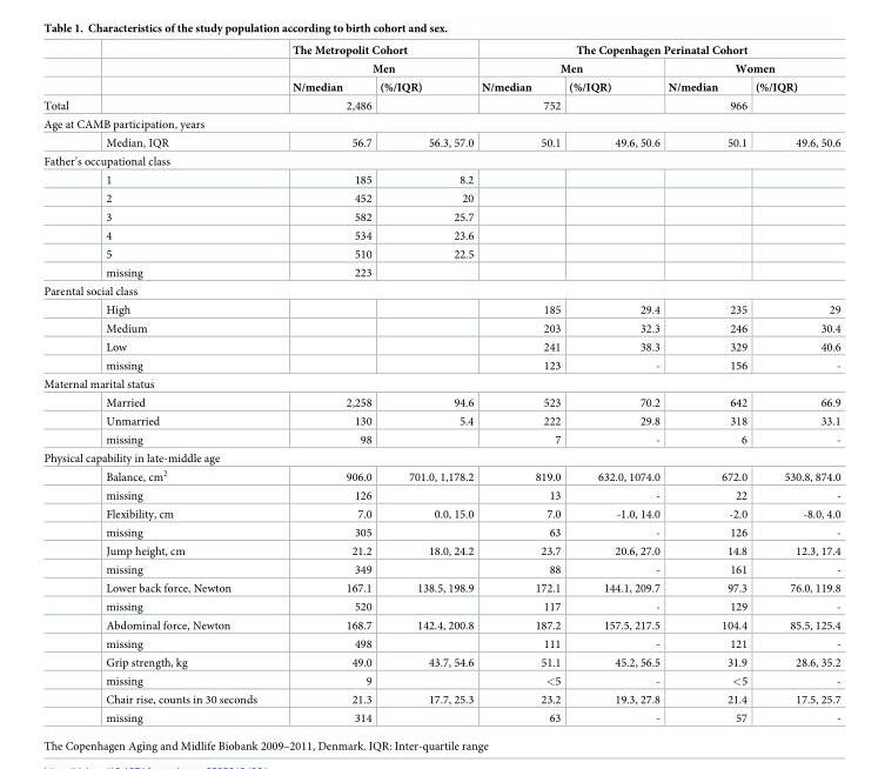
<table><thead><tr><td rowspan="3"></td><td rowspan="3"></td><td rowspan="2" colspan="2">The Metropolit Cohort Men</td><td colspan="4">The Copenhagen Perinatal Cohort</td></tr><tr><td colspan="2">Men</td><td colspan="2">Women</td></tr><tr><td>N/median</td><td>(%/IQR)</td><td>N/median</td><td>(%/IQR)</td><td>N/median</td><td>(%/IQR)</td></tr></thead><tbody><tr><td>Total</td><td></td><td>2,486</td><td></td><td>752</td><td></td><td>966</td><td></td></tr><tr><td colspan="8">Age at CAMB participation, years</td></tr><tr><td></td><td>Median, IQR</td><td>56.7</td><td>56.3, 57.0</td><td>50.1</td><td>49.6, 50.6</td><td>50.1</td><td>49.6, 50.6</td></tr><tr><td colspan="8">Father’s occupational class</td></tr><tr><td></td><td>1</td><td>185</td><td>8.2</td><td></td><td></td><td></td><td></td></tr><tr><td></td><td>2</td><td>452</td><td>20</td><td></td><td></td><td></td><td></td></tr><tr><td></td><td>3</td><td>582</td><td>25.7</td><td></td><td></td><td></td><td></td></tr><tr><td></td><td>4</td><td>534</td><td>23.6</td><td></td><td></td><td></td><td></td></tr><tr><td></td><td>5</td><td>510</td><td>22.5</td><td></td><td></td><td></td><td></td></tr><tr><td></td><td>missing</td><td>223</td><td></td><td></td><td></td><td></td><td></td></tr><tr><td colspan="8">Parental social class</td></tr><tr><td></td><td>High</td><td></td><td></td><td>185</td><td>29.4</td><td>235</td><td>29</td></tr><tr><td></td><td>Medium</td><td></td><td></td><td>203</td><td>32.3</td><td>246</td><td>30.4</td></tr><tr><td></td><td>Low</td><td></td><td></td><td>241</td><td>38.3</td><td>329</td><td>40.6</td></tr><tr><td></td><td>missing</td><td></td><td></td><td>123</td><td>-</td><td>156</td><td>-</td></tr><tr><td colspan="8">Maternal marital status</td></tr><tr><td></td><td>Married</td><td>2,258</td><td>94.6</td><td>523</td><td>70.2</td><td>642</td><td>66.9</td></tr><tr><td></td><td>Unmarried</td><td>130</td><td>5.4</td><td>222</td><td>29.8</td><td>318</td><td>33.1</td></tr><tr><td></td><td>missing</td><td>98</td><td></td><td>7</td><td>-</td><td>6</td><td>-</td></tr><tr><td colspan="8">Physical capability in late-middle age</td></tr><tr><td></td><td>Balance, cm<sup>2</sup></td><td>906.0</td><td>701.0, 1,178.2</td><td>819.0</td><td>632.0, 1074.0</td><td>672.0</td><td>530.8, 874.0</td></tr><tr><td></td><td>missing</td><td>126</td><td></td><td>13</td><td>-</td><td>22</td><td>-</td></tr><tr><td></td><td>Flexibility, cm</td><td>7.0</td><td>0.0, 15.0</td><td>7.0</td><td>-1.0, 14.0</td><td>-2.0</td><td>-8.0, 4.0</td></tr><tr><td></td><td>missing</td><td>305</td><td></td><td>63</td><td>-</td><td>126</td><td>-</td></tr><tr><td></td><td>Jump height, cm</td><td>21.2</td><td>18.0, 24.2</td><td>23.7</td><td>20.6, 27.0</td><td>14.8</td><td>12.3, 17.4</td></tr><tr><td></td><td>missing</td><td>349</td><td></td><td>88</td><td>-</td><td>161</td><td>-</td></tr><tr><td></td><td>Lower back force, Newton</td><td>167.1</td><td>138.5, 198.9</td><td>172.1</td><td>144.1, 209.7</td><td>97.3</td><td>76.0, 119.8</td></tr><tr><td></td><td>missing</td><td>520</td><td></td><td>117</td><td>-</td><td>129</td><td>-</td></tr><tr><td></td><td>Abdominal force, Newton</td><td>168.7</td><td>142.4, 200.8</td><td>187.2</td><td>157.5, 217.5</td><td>104.4</td><td>85.5, 125.4</td></tr><tr><td></td><td>missing</td><td>498</td><td></td><td>111</td><td>-</td><td>121</td><td>-</td></tr><tr><td></td><td>Grip strength, kg</td><td>49.0</td><td>43.7, 54.6</td><td>51.1</td><td>45.2, 56.5</td><td>31.9</td><td>28.6, 35.2</td></tr><tr><td></td><td>missing</td><td>9</td><td></td><td>&lt;5</td><td>-</td><td>&lt;5</td><td>-</td></tr><tr><td></td><td>Chair rise, counts in 30 seconds</td><td>21.3</td><td>17.7, 25.3</td><td>23.2</td><td>19.3, 27.8</td><td>21.4</td><td>17.5, 25.7</td></tr><tr><td></td><td>missing</td><td>314</td><td></td><td>63</td><td>-</td><td>57</td><td>-</td></tr></tbody></table>